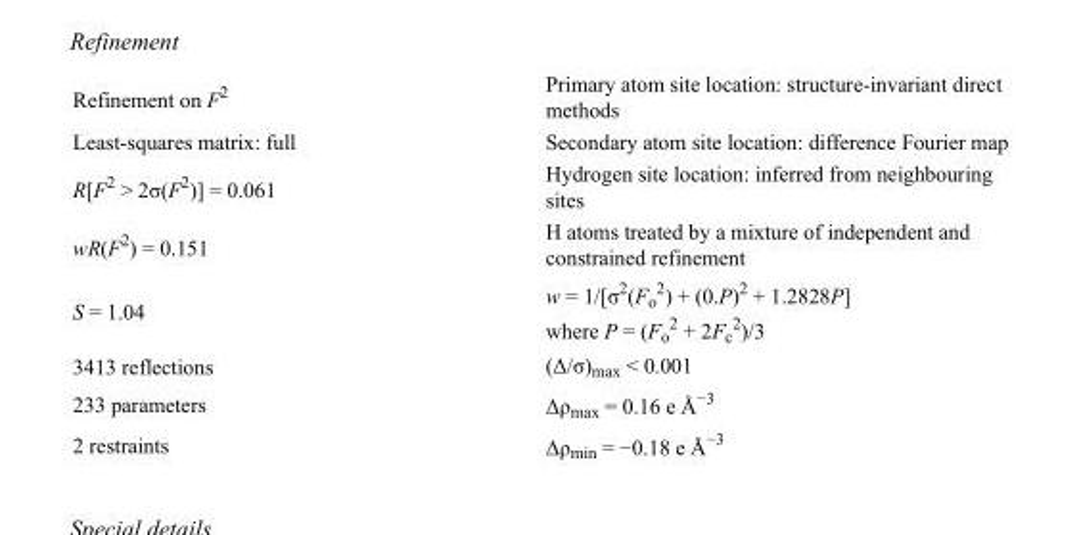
<table><tbody><tr><td>Refinement on F<sup>2</sup></td><td>Primary atom site location: structure-invariant direct methods</td></tr><tr><td>Least-squares matrix: full</td><td>Secondary atom site location: difference Fourier map</td></tr><tr><td>R[F<sup>2</sup> &gt; 2σ(F<sup>2</sup>)] = 0.061</td><td>Hydrogen site location: inferred from neighbouring sites</td></tr><tr><td>wR(F<sup>2</sup>) = 0.151</td><td>H atoms treated by a mixture of independent and constrained refinement</td></tr><tr><td>S = 1.04</td><td>w = 1/[σ<sup>2</sup>(F<sub>o</sub> <sup>2</sup>) + (0.P)<sup>2</sup> + 1.2828P] where P = (F<sub>o</sub> <sup>2</sup> + 2F<sub>c</sub> <sup>2</sup>)/3</td></tr><tr><td>3413 reflections</td><td>(Δ/σ)<sub>max</sub> &lt; 0.001</td></tr><tr><td>233 parameters</td><td>Δρ<sub>max</sub> = 0.16 e Å<sup>−3</sup></td></tr><tr><td>2 restraints</td><td>Δρ<sub>min</sub> = −0.18 e Å<sup>−3</sup></td></tr></tbody></table>